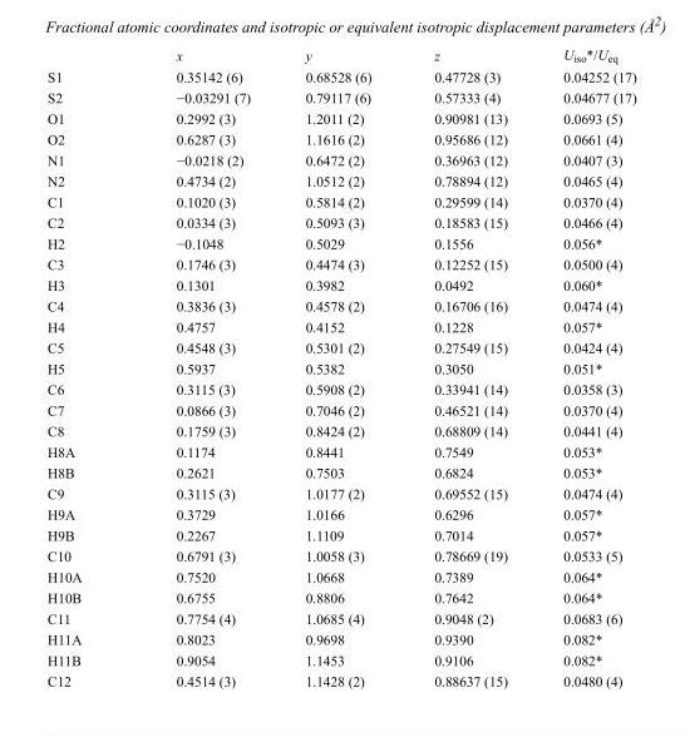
<table><thead><tr><td></td><td>x</td><td>y</td><td>z</td><td>U<sub>iso</sub>*/U<sub>eq</sub></td></tr></thead><tbody><tr><td>S1</td><td>0.35142 (6)</td><td>0.68528 (6)</td><td>0.47728 (3)</td><td>0.04252 (17)</td></tr><tr><td>S2</td><td>−0.03291 (7)</td><td>0.79117 (6)</td><td>0.57333 (4)</td><td>0.04677 (17)</td></tr><tr><td>O1</td><td>0.2992 (3)</td><td>1.2011 (2)</td><td>0.90981 (13)</td><td>0.0693 (5)</td></tr><tr><td>O2</td><td>0.6287 (3)</td><td>1.1616 (2)</td><td>0.95686 (12)</td><td>0.0661 (4)</td></tr><tr><td>N1</td><td>−0.0218 (2)</td><td>0.6472 (2)</td><td>0.36963 (12)</td><td>0.0407 (3)</td></tr><tr><td>N2</td><td>0.4734 (2)</td><td>1.0512 (2)</td><td>0.78894 (12)</td><td>0.0465 (4)</td></tr><tr><td>C1</td><td>0.1020 (3)</td><td>0.5814 (2)</td><td>0.29599 (14)</td><td>0.0370 (4)</td></tr><tr><td>C2</td><td>0.0334 (3)</td><td>0.5093 (3)</td><td>0.18583 (15)</td><td>0.0466 (4)</td></tr><tr><td>H2</td><td>−0.1048</td><td>0.5029</td><td>0.1556</td><td>0.056*</td></tr><tr><td>C3</td><td>0.1746 (3)</td><td>0.4474 (3)</td><td>0.12252 (15)</td><td>0.0500 (4)</td></tr><tr><td>H3</td><td>0.1301</td><td>0.3982</td><td>0.0492</td><td>0.060*</td></tr><tr><td>C4</td><td>0.3836 (3)</td><td>0.4578 (2)</td><td>0.16706 (16)</td><td>0.0474 (4)</td></tr><tr><td>H4</td><td>0.4757</td><td>0.4152</td><td>0.1228</td><td>0.057*</td></tr><tr><td>C5</td><td>0.4548 (3)</td><td>0.5301 (2)</td><td>0.27549 (15)</td><td>0.0424 (4)</td></tr><tr><td>H5</td><td>0.5937</td><td>0.5382</td><td>0.3050</td><td>0.051*</td></tr><tr><td>C6</td><td>0.3115 (3)</td><td>0.5908 (2)</td><td>0.33941 (14)</td><td>0.0358 (3)</td></tr><tr><td>C7</td><td>0.0866 (3)</td><td>0.7046 (2)</td><td>0.46521 (14)</td><td>0.0370 (4)</td></tr><tr><td>C8</td><td>0.1759 (3)</td><td>0.8424 (2)</td><td>0.68809 (14)</td><td>0.0441 (4)</td></tr><tr><td>H8A</td><td>0.1174</td><td>0.8441</td><td>0.7549</td><td>0.053*</td></tr><tr><td>H8B</td><td>0.2621</td><td>0.7503</td><td>0.6824</td><td>0.053*</td></tr><tr><td>C9</td><td>0.3115 (3)</td><td>1.0177 (2)</td><td>0.69552 (15)</td><td>0.0474 (4)</td></tr><tr><td>H9A</td><td>0.3729</td><td>1.0166</td><td>0.6296</td><td>0.057*</td></tr><tr><td>H9B</td><td>0.2267</td><td>1.1109</td><td>0.7014</td><td>0.057*</td></tr><tr><td>C10</td><td>0.6791 (3)</td><td>1.0058 (3)</td><td>0.78669 (19)</td><td>0.0533 (5)</td></tr><tr><td>H10A</td><td>0.7520</td><td>1.0668</td><td>0.7389</td><td>0.064*</td></tr><tr><td>H10B</td><td>0.6755</td><td>0.8806</td><td>0.7642</td><td>0.064*</td></tr><tr><td>C11</td><td>0.7754 (4)</td><td>1.0685 (4)</td><td>0.9048 (2)</td><td>0.0683 (6)</td></tr><tr><td>H11A</td><td>0.8023</td><td>0.9698</td><td>0.9390</td><td>0.082*</td></tr><tr><td>H11B</td><td>0.9054</td><td>1.1453</td><td>0.9106</td><td>0.082*</td></tr><tr><td>C12</td><td>0.4514 (3)</td><td>1.1428 (2)</td><td>0.88637 (15)</td><td>0.0480 (4)</td></tr></tbody></table>